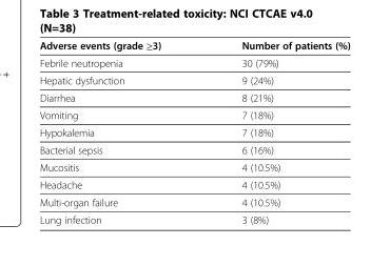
<table><thead><tr><td>Adverse events (grade ≥3)</td><td>Number of patients (%)</td></tr></thead><tbody><tr><td>Febrile neutropenia</td><td>30 (79%)</td></tr><tr><td>Hepatic dysfunction</td><td>9 (24%)</td></tr><tr><td>Diarrhea</td><td>8 (21%)</td></tr><tr><td>Vomiting</td><td>7 (18%)</td></tr><tr><td>Hypokalemia</td><td>7 (18%)</td></tr><tr><td>Bacterial sepsis</td><td>6 (16%)</td></tr><tr><td>Mucositis</td><td>4 (10.5%)</td></tr><tr><td>Headache</td><td>4 (10.5%)</td></tr><tr><td>Multi-organ failure</td><td>4 (10.5%)</td></tr><tr><td>Lung infection</td><td>3 (8%)</td></tr></tbody></table>